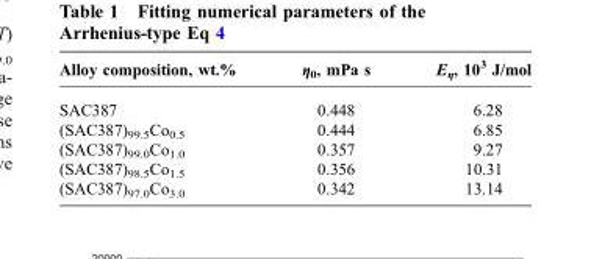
<table><thead><tr><td>Alloy composition, wt.%</td><td>η<sub>0</sub>, mPa s</td><td>E<sub>η</sub>, 10<sup>3</sup> J/mol</td></tr></thead><tbody><tr><td>SAC387</td><td>0.448</td><td>6.28</td></tr><tr><td>(SAC387)<sub>99.5</sub>Co<sub>0.5</sub></td><td>0.444</td><td>6.85</td></tr><tr><td>(SAC387)<sub>99.0</sub>Co<sub>1.0</sub></td><td>0.357</td><td>9.27</td></tr><tr><td>(SAC387)<sub>98.5</sub>Co<sub>1.5</sub></td><td>0.356</td><td>10.31</td></tr><tr><td>(SAC387)<sub>97.0</sub>Co<sub>3.0</sub></td><td>0.342</td><td>13.14</td></tr></tbody></table>